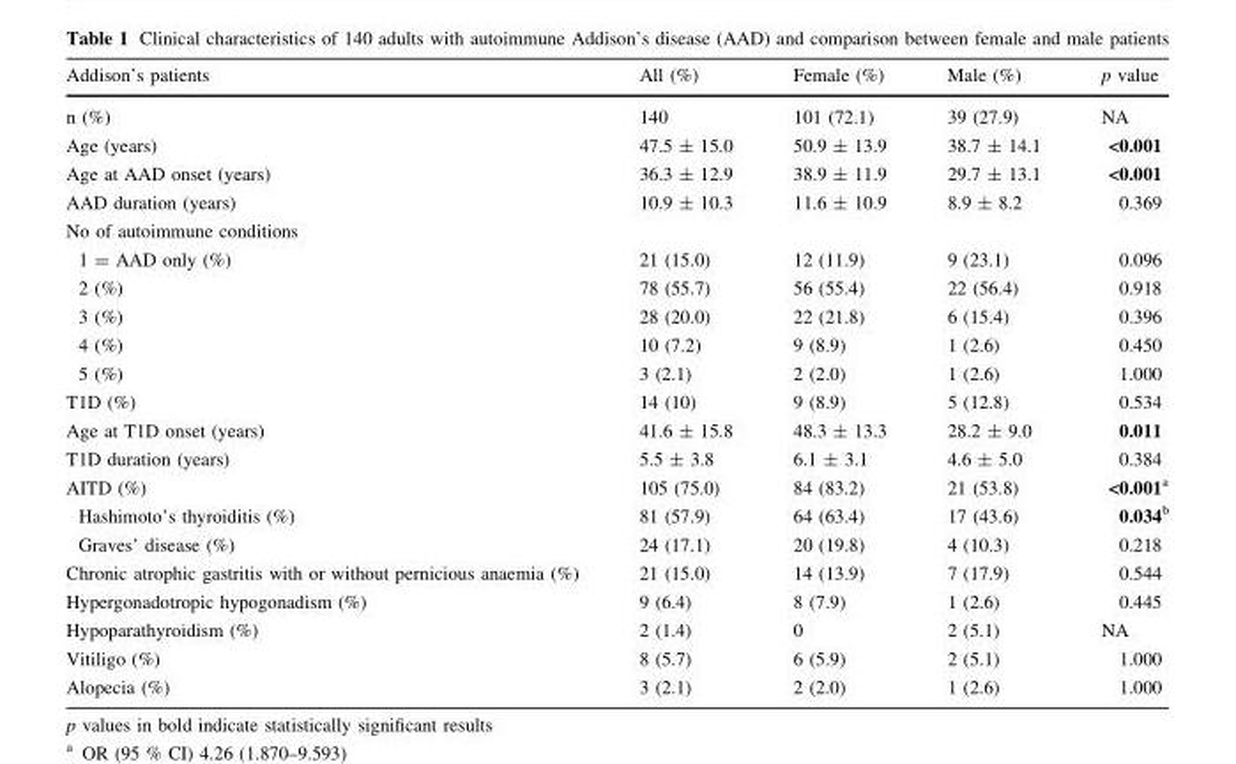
<table><thead><tr><td>Addison’s patients</td><td>All (%)</td><td>Female (%)</td><td>Male (%)</td><td>p value</td></tr></thead><tbody><tr><td>n (%)</td><td>140</td><td>101 (72.1)</td><td>39 (27.9)</td><td>NA</td></tr><tr><td>Age (years)</td><td>47.5 ± 15.0</td><td>50.9 ± 13.9</td><td>38.7 ± 14.1</td><td>&lt;0.001</td></tr><tr><td>Age at AAD onset (years)</td><td>36.3 ± 12.9</td><td>38.9 ± 11.9</td><td>29.7 ± 13.1</td><td>&lt;0.001</td></tr><tr><td>AAD duration (years)</td><td>10.9 ± 10.3</td><td>11.6 ± 10.9</td><td>8.9 ± 8.2</td><td>0.369</td></tr><tr><td colspan="5">No of autoimmune conditions</td></tr><tr><td>1 = AAD only (%)</td><td>21 (15.0)</td><td>12 (11.9)</td><td>9 (23.1)</td><td>0.096</td></tr><tr><td>2 (%)</td><td>78 (55.7)</td><td>56 (55.4)</td><td>22 (56.4)</td><td>0.918</td></tr><tr><td>3 (%)</td><td>28 (20.0)</td><td>22 (21.8)</td><td>6 (15.4)</td><td>0.396</td></tr><tr><td>4 (%)</td><td>10 (7.2)</td><td>9 (8.9)</td><td>1 (2.6)</td><td>0.450</td></tr><tr><td>5 (%)</td><td>3 (2.1)</td><td>2 (2.0)</td><td>1 (2.6)</td><td>1.000</td></tr><tr><td>T1D (%)</td><td>14 (10)</td><td>9 (8.9)</td><td>5 (12.8)</td><td>0.534</td></tr><tr><td>Age at T1D onset (years)</td><td>41.6 ± 15.8</td><td>48.3 ± 13.3</td><td>28.2 ± 9.0</td><td>0.011</td></tr><tr><td>T1D duration (years)</td><td>5.5 ± 3.8</td><td>6.1 ± 3.1</td><td>4.6 ± 5.0</td><td>0.384</td></tr><tr><td>AITD (%)</td><td>105 (75.0)</td><td>84 (83.2)</td><td>21 (53.8)</td><td>&lt;0.001<sup>a</sup></td></tr><tr><td>Hashimoto’s thyroiditis (%)</td><td>81 (57.9)</td><td>64 (63.4)</td><td>17 (43.6)</td><td>0.034<sup>b</sup></td></tr><tr><td>Graves’ disease (%)</td><td>24 (17.1)</td><td>20 (19.8)</td><td>4 (10.3)</td><td>0.218</td></tr><tr><td>Chronic atrophic gastritis with or without pernicious anaemia (%)</td><td>21 (15.0)</td><td>14 (13.9)</td><td>7 (17.9)</td><td>0.544</td></tr><tr><td>Hypergonadotropic hypogonadism (%)</td><td>9 (6.4)</td><td>8 (7.9)</td><td>1 (2.6)</td><td>0.445</td></tr><tr><td>Hypoparathyroidism (%)</td><td>2 (1.4)</td><td>0</td><td>2 (5.1)</td><td>NA</td></tr><tr><td>Vitiligo (%)</td><td>8 (5.7)</td><td>6 (5.9)</td><td>2 (5.1)</td><td>1.000</td></tr><tr><td>Alopecia (%)</td><td>3 (2.1)</td><td>2 (2.0)</td><td>1 (2.6)</td><td>1.000</td></tr></tbody></table>